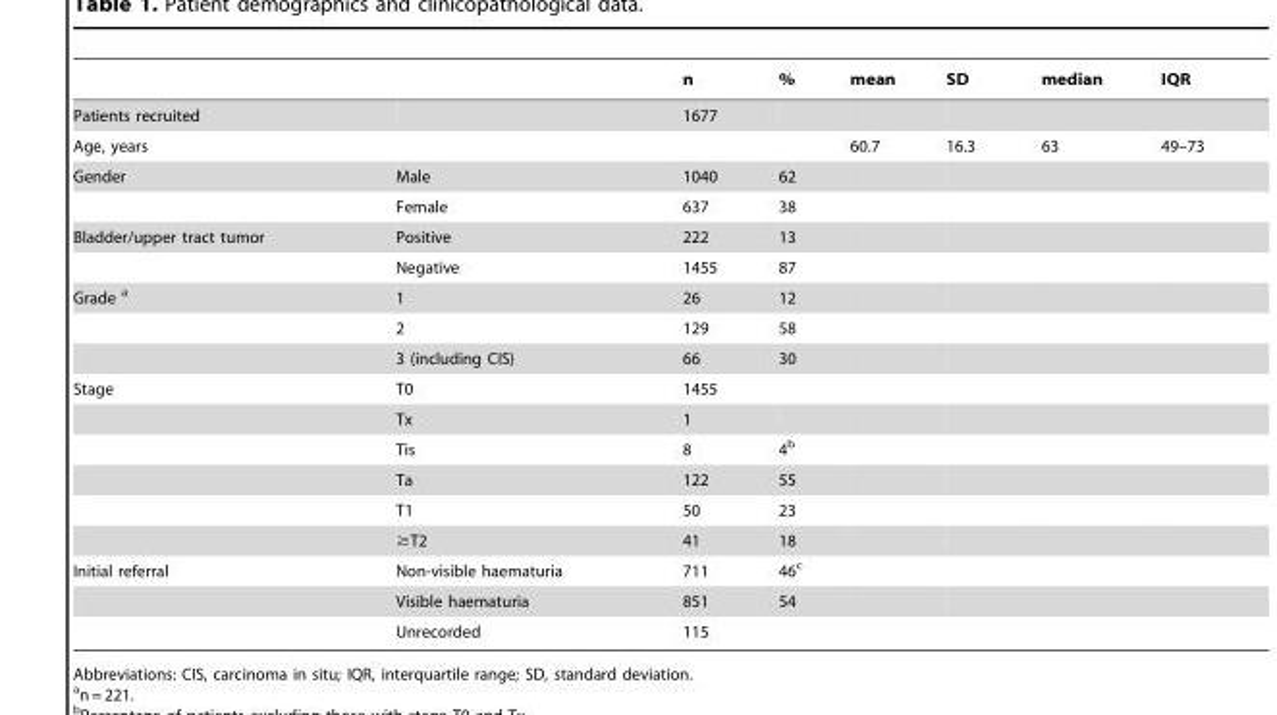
<table><thead><tr><td></td><td></td><td>n</td><td>%</td><td>mean</td><td>SD</td><td>median</td><td>IQR</td></tr></thead><tbody><tr><td>Patients recruited</td><td></td><td>1677</td><td></td><td></td><td></td><td></td><td></td></tr><tr><td>Age, years</td><td></td><td></td><td></td><td>60.7</td><td>16.3</td><td>63</td><td>49–73</td></tr><tr><td rowspan="2">Gender</td><td>Male</td><td>1040</td><td>62</td><td></td><td></td><td></td><td></td></tr><tr><td>Female</td><td>637</td><td>38</td><td></td><td></td><td></td><td></td></tr><tr><td rowspan="2">Bladder/upper tract tumor</td><td>Positive</td><td>222</td><td>13</td><td></td><td></td><td></td><td></td></tr><tr><td>Negative</td><td>1455</td><td>87</td><td></td><td></td><td></td><td></td></tr><tr><td rowspan="3">Grade a</td><td>1</td><td>26</td><td>12</td><td></td><td></td><td></td><td></td></tr><tr><td>2</td><td>129</td><td>58</td><td></td><td></td><td></td><td></td></tr><tr><td>3 (including CIS)</td><td>66</td><td>30</td><td></td><td></td><td></td><td></td></tr><tr><td rowspan="6">Stage</td><td>T0</td><td>1455</td><td></td><td></td><td></td><td></td><td></td></tr><tr><td>Tx</td><td>1</td><td></td><td></td><td></td><td></td><td></td></tr><tr><td>Tis</td><td>8</td><td>4<sup>b</sup></td><td></td><td></td><td></td><td></td></tr><tr><td>Ta</td><td>122</td><td>55</td><td></td><td></td><td></td><td></td></tr><tr><td>T1</td><td>50</td><td>23</td><td></td><td></td><td></td><td></td></tr><tr><td>≥T2</td><td>41</td><td>18</td><td></td><td></td><td></td><td></td></tr><tr><td rowspan="3">Initial referral</td><td>Non-visible haematuria</td><td>711</td><td>46<sup>c</sup></td><td></td><td></td><td></td><td></td></tr><tr><td>Visible haematuria</td><td>851</td><td>54</td><td></td><td></td><td></td><td></td></tr><tr><td>Unrecorded</td><td>115</td><td></td><td></td><td></td><td></td><td></td></tr></tbody></table>